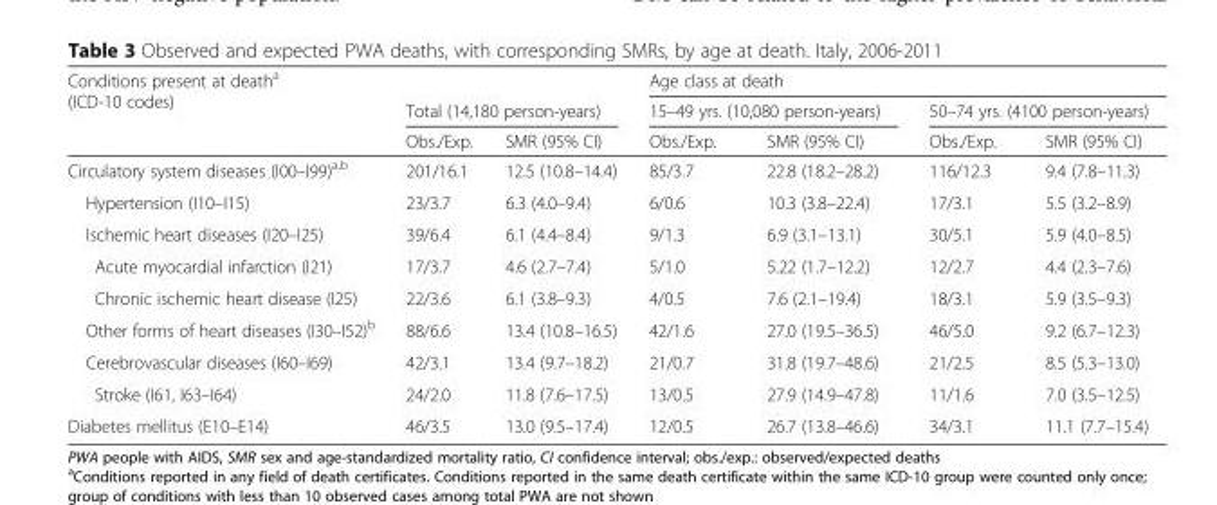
<table><thead><tr><td rowspan="3">Conditions present at death<sup>a</sup> (ICD-10 codes)</td><td></td><td></td><td colspan="4">Age class at death</td></tr><tr><td colspan="2">Total (14,180 person-years)</td><td colspan="2">15–49 yrs. (10,080 person-years)</td><td colspan="2">50–74 yrs. (4100 person-years)</td></tr><tr><td>Obs./Exp.</td><td>SMR (95% CI)</td><td>Obs./Exp.</td><td>SMR (95% CI)</td><td>Obs./Exp.</td><td>SMR (95% CI)</td></tr></thead><tbody><tr><td>Circulatory system diseases (I00–I99)<sup>a,b</sup></td><td>201/16.1</td><td>12.5 (10.8–14.4)</td><td>85/3.7</td><td>22.8 (18.2–28.2)</td><td>116/12.3</td><td>9.4 (7.8–11.3)</td></tr><tr><td>Hypertension (I10–I15)</td><td>23/3.7</td><td>6.3 (4.0–9.4)</td><td>6/0.6</td><td>10.3 (3.8–22.4)</td><td>17/3.1</td><td>5.5 (3.2–8.9)</td></tr><tr><td>Ischemic heart diseases (I20–I25)</td><td>39/6.4</td><td>6.1 (4.4–8.4)</td><td>9/1.3</td><td>6.9 (3.1–13.1)</td><td>30/5.1</td><td>5.9 (4.0–8.5)</td></tr><tr><td>Acute myocardial infarction (I21)</td><td>17/3.7</td><td>4.6 (2.7–7.4)</td><td>5/1.0</td><td>5.22 (1.7–12.2)</td><td>12/2.7</td><td>4.4 (2.3–7.6)</td></tr><tr><td>Chronic ischemic heart disease (I25)</td><td>22/3.6</td><td>6.1 (3.8–9.3)</td><td>4/0.5</td><td>7.6 (2.1–19.4)</td><td>18/3.1</td><td>5.9 (3.5–9.3)</td></tr><tr><td>Other forms of heart diseases (I30–I52)<sup>b</sup></td><td>88/6.6</td><td>13.4 (10.8–16.5)</td><td>42/1.6</td><td>27.0 (19.5–36.5)</td><td>46/5.0</td><td>9.2 (6.7–12.3)</td></tr><tr><td>Cerebrovascular diseases (I60–I69)</td><td>42/3.1</td><td>13.4 (9.7–18.2)</td><td>21/0.7</td><td>31.8 (19.7–48.6)</td><td>21/2.5</td><td>8.5 (5.3–13.0)</td></tr><tr><td>Stroke (I61, I63–I64)</td><td>24/2.0</td><td>11.8 (7.6–17.5)</td><td>13/0.5</td><td>27.9 (14.9–47.8)</td><td>11/1.6</td><td>7.0 (3.5–12.5)</td></tr><tr><td>Diabetes mellitus (E10–E14)</td><td>46/3.5</td><td>13.0 (9.5–17.4)</td><td>12/0.5</td><td>26.7 (13.8–46.6)</td><td>34/3.1</td><td>11.1 (7.7–15.4)</td></tr></tbody></table>